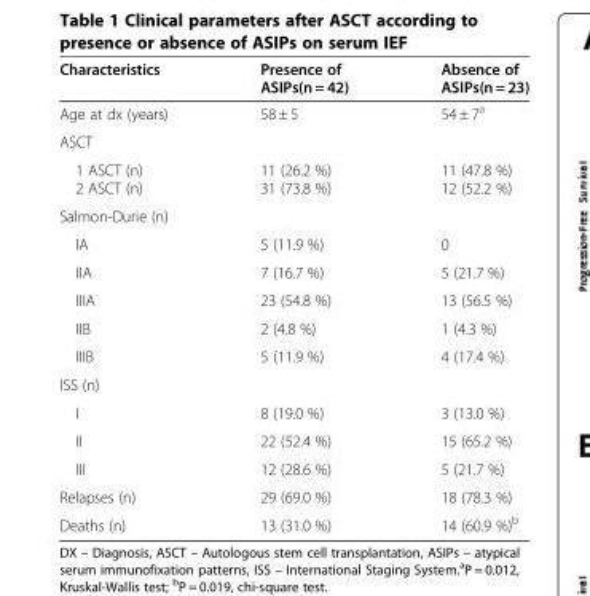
<table><thead><tr><td>Characteristics</td><td>Presence of ASIPs(n = 42)</td><td>Absence of ASIPs(n = 23)</td></tr></thead><tbody><tr><td>Age at dx (years)</td><td>58 ± 5</td><td>54 ± 7<sup>a</sup></td></tr><tr><td colspan="3">ASCT</td></tr><tr><td>1 ASCT (n) 2 ASCT (n)</td><td>11 (26.2 %) 31 (73.8 %)</td><td>11 (47.8 %) 12 (52.2 %)</td></tr><tr><td colspan="3">Salmon-Durie (n)</td></tr><tr><td>IA</td><td>5 (11.9 %)</td><td>0</td></tr><tr><td>IIA</td><td>7 (16.7 %)</td><td>5 (21.7 %)</td></tr><tr><td>IIIA</td><td>23 (54.8 %)</td><td>13 (56.5 %)</td></tr><tr><td>IIB</td><td>2 (4.8 %)</td><td>1 (4.3 %)</td></tr><tr><td>IIIB</td><td>5 (11.9 %)</td><td>4 (17.4 %)</td></tr><tr><td colspan="3">ISS (n)</td></tr><tr><td>I</td><td>8 (19.0 %)</td><td>3 (13.0 %)</td></tr><tr><td>II</td><td>22 (52.4 %)</td><td>15 (65.2 %)</td></tr><tr><td>III</td><td>12 (28.6 %)</td><td>5 (21.7 %)</td></tr><tr><td>Relapses (n)</td><td>29 (69.0 %)</td><td>18 (78.3 %)</td></tr><tr><td>Deaths (n)</td><td>13 (31.0 %)</td><td>14 (60.9 %)<sup>b</sup></td></tr></tbody></table>